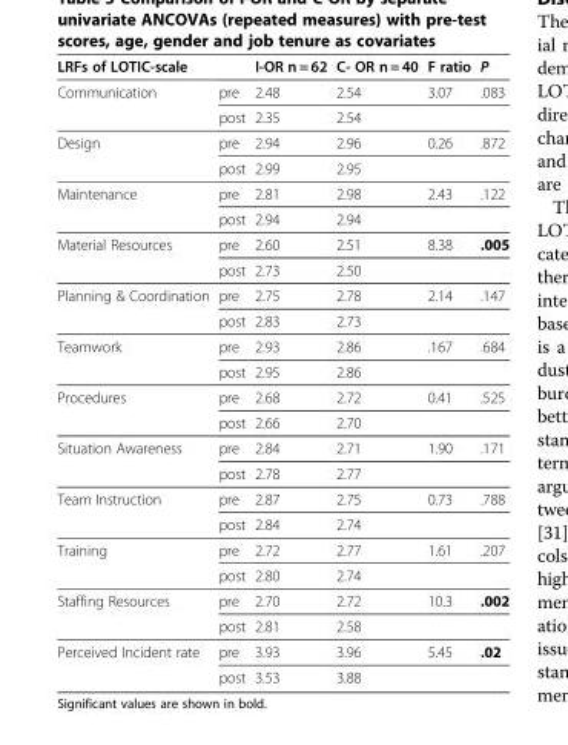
<table><thead><tr><td>LRFs of LOTIC-scale</td><td></td><td>I-OR n = 62</td><td>C- OR n = 40</td><td>F ratio</td><td>P</td></tr></thead><tbody><tr><td rowspan="2">Communication</td><td>pre</td><td>2.48</td><td>2.54</td><td>3.07</td><td>.083</td></tr><tr><td>post</td><td>2.35</td><td>2.54</td><td></td><td></td></tr><tr><td rowspan="2">Design</td><td>pre</td><td>2.94</td><td>2.96</td><td>0.26</td><td>.872</td></tr><tr><td>post</td><td>2.99</td><td>2.95</td><td></td><td></td></tr><tr><td rowspan="2">Maintenance</td><td>pre</td><td>2.81</td><td>2.98</td><td>2.43</td><td>.122</td></tr><tr><td>post</td><td>2.94</td><td>2.94</td><td></td><td></td></tr><tr><td rowspan="2">Material Resources</td><td>pre</td><td>2.60</td><td>2.51</td><td>8.38</td><td>.005</td></tr><tr><td>post</td><td>2.73</td><td>2.50</td><td></td><td></td></tr><tr><td rowspan="2">Planning &amp; Coordination</td><td>pre</td><td>2.75</td><td>2.78</td><td>2.14</td><td>.147</td></tr><tr><td>post</td><td>2.83</td><td>2.73</td><td></td><td></td></tr><tr><td rowspan="2">Teamwork</td><td>pre</td><td>2.93</td><td>2.86</td><td>.167</td><td>.684</td></tr><tr><td>post</td><td>2.95</td><td>2.86</td><td></td><td></td></tr><tr><td rowspan="2">Procedures</td><td>pre</td><td>2.68</td><td>2.72</td><td>0.41</td><td>.525</td></tr><tr><td>post</td><td>2.66</td><td>2.70</td><td></td><td></td></tr><tr><td rowspan="2">Situation Awareness</td><td>pre</td><td>2.84</td><td>2.71</td><td>1.90</td><td>.171</td></tr><tr><td>post</td><td>2.78</td><td>2.77</td><td></td><td></td></tr><tr><td rowspan="2">Team Instruction</td><td>pre</td><td>2.87</td><td>2.75</td><td>0.73</td><td>.788</td></tr><tr><td>post</td><td>2.84</td><td>2.74</td><td></td><td></td></tr><tr><td rowspan="2">Training</td><td>pre</td><td>2.72</td><td>2.77</td><td>1.61</td><td>.207</td></tr><tr><td>post</td><td>2.80</td><td>2.74</td><td></td><td></td></tr><tr><td rowspan="2">Staffing Resources</td><td>pre</td><td>2.70</td><td>2.72</td><td>10.3</td><td>.002</td></tr><tr><td>post</td><td>2.81</td><td>2.58</td><td></td><td></td></tr><tr><td rowspan="2">Perceived Incident rate</td><td>pre</td><td>3.93</td><td>3.96</td><td>5.45</td><td>.02</td></tr><tr><td>post</td><td>3.53</td><td>3.88</td><td></td><td></td></tr></tbody></table>